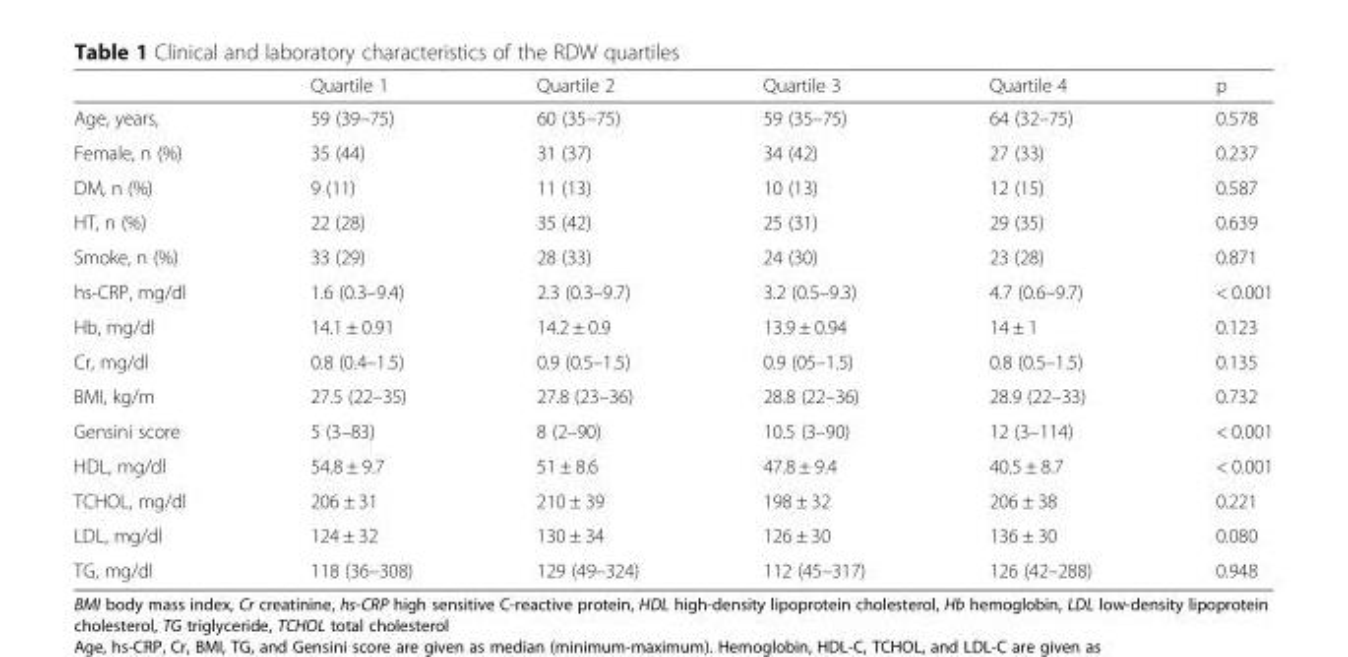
<table><thead><tr><td></td><td>Quartile 1</td><td>Quartile 2</td><td>Quartile 3</td><td>Quartile 4</td><td>p</td></tr></thead><tbody><tr><td>Age, years,</td><td>59 (39–75)</td><td>60 (35–75)</td><td>59 (35–75)</td><td>64 (32–75)</td><td>0.578</td></tr><tr><td>Female, n (%)</td><td>35 (44)</td><td>31 (37)</td><td>34 (42)</td><td>27 (33)</td><td>0.237</td></tr><tr><td>DM, n (%)</td><td>9 (11)</td><td>11 (13)</td><td>10 (13)</td><td>12 (15)</td><td>0.587</td></tr><tr><td>HT, n (%)</td><td>22 (28)</td><td>35 (42)</td><td>25 (31)</td><td>29 (35)</td><td>0.639</td></tr><tr><td>Smoke, n (%)</td><td>33 (29)</td><td>28 (33)</td><td>24 (30)</td><td>23 (28)</td><td>0.871</td></tr><tr><td>hs-CRP, mg/dl</td><td>1.6 (0.3–9.4)</td><td>2.3 (0.3–9.7)</td><td>3.2 (0.5–9.3)</td><td>4.7 (0.6–9.7)</td><td>&lt; 0.001</td></tr><tr><td>Hb, mg/dl</td><td>14.1 ± 0.91</td><td>14.2 ± 0.9</td><td>13.9 ± 0.94</td><td>14 ± 1</td><td>0.123</td></tr><tr><td>Cr, mg/dl</td><td>0.8 (0.4–1.5)</td><td>0.9 (0.5–1.5)</td><td>0.9 (05–1.5)</td><td>0.8 (0.5–1.5)</td><td>0.135</td></tr><tr><td>BMI, kg/m</td><td>27.5 (22–35)</td><td>27.8 (23–36)</td><td>28.8 (22–36)</td><td>28.9 (22–33)</td><td>0.732</td></tr><tr><td>Gensini score</td><td>5 (3–83)</td><td>8 (2–90)</td><td>10.5 (3–90)</td><td>12 (3–114)</td><td>&lt; 0.001</td></tr><tr><td>HDL, mg/dl</td><td>54.8 ± 9.7</td><td>51 ± 8.6</td><td>47.8 ± 9.4</td><td>40.5 ± 8.7</td><td>&lt; 0.001</td></tr><tr><td>TCHOL, mg/dl</td><td>206 ± 31</td><td>210 ± 39</td><td>198 ± 32</td><td>206 ± 38</td><td>0.221</td></tr><tr><td>LDL, mg/dl</td><td>124 ± 32</td><td>130 ± 34</td><td>126 ± 30</td><td>136 ± 30</td><td>0.080</td></tr><tr><td>TG, mg/dl</td><td>118 (36–308)</td><td>129 (49–324)</td><td>112 (45–317)</td><td>126 (42–288)</td><td>0.948</td></tr></tbody></table>